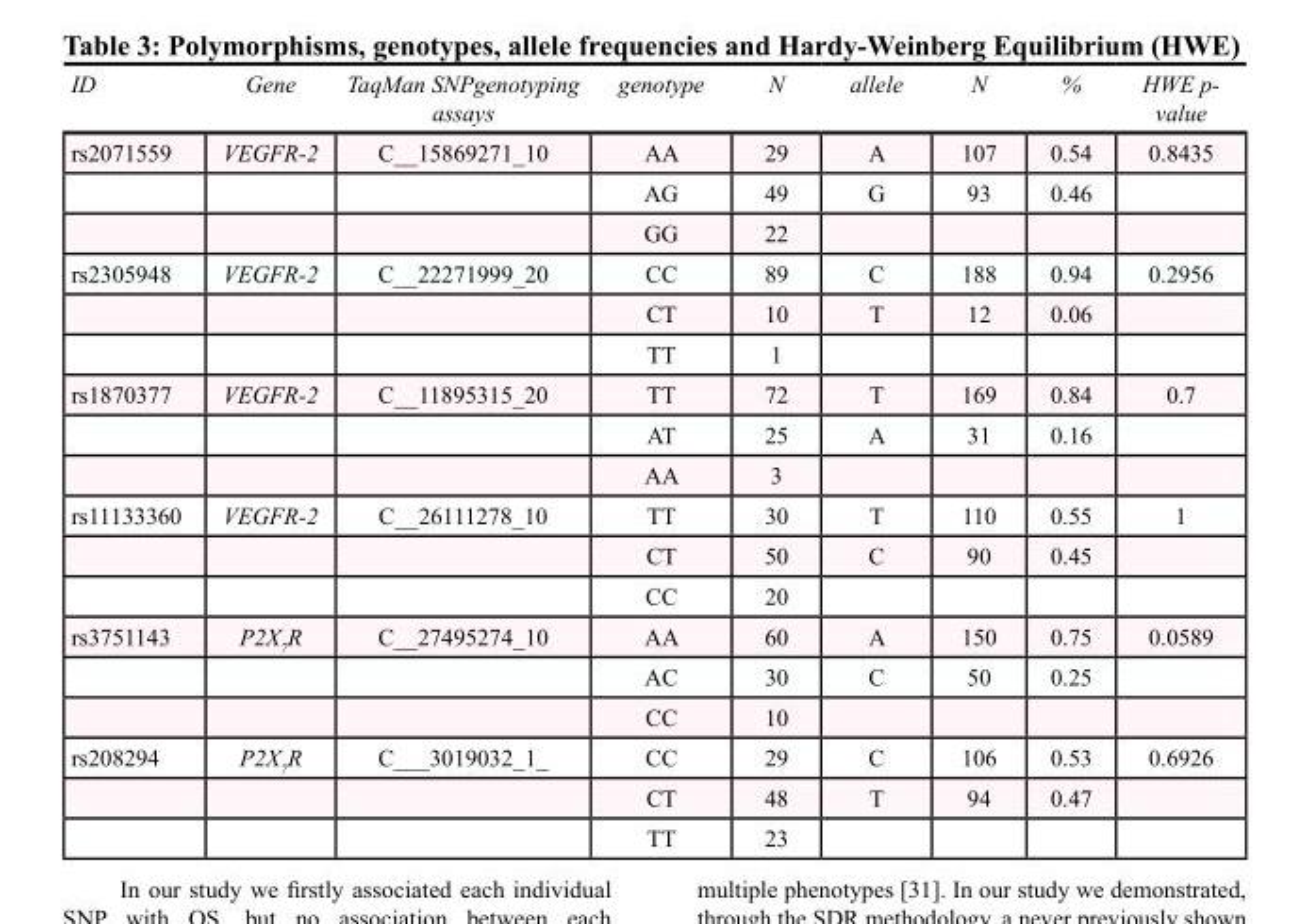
<table><thead><tr><td>ID</td><td>Gene</td><td>TaqMan SNPgenotyping assays</td><td>genotype</td><td>N</td><td>allele</td><td>N</td><td>%</td><td>HWE p- value</td></tr></thead><tbody><tr><td rowspan="3">rs2071559</td><td>VEGFR-2</td><td>C__15869271_10</td><td>AA</td><td>29</td><td>A</td><td>107</td><td>0.54</td><td>0.8435</td></tr><tr><td></td><td></td><td>AG</td><td>49</td><td>G</td><td>93</td><td>0.46</td><td></td></tr><tr><td></td><td></td><td>GG</td><td>22</td><td></td><td></td><td></td><td></td></tr><tr><td rowspan="3">rs2305948</td><td>VEGFR-2</td><td>C__22271999_20</td><td>CC</td><td>89</td><td>C</td><td>188</td><td>0.94</td><td>0.2956</td></tr><tr><td></td><td></td><td>CT</td><td>10</td><td>T</td><td>12</td><td>0.06</td><td></td></tr><tr><td></td><td></td><td>TT</td><td>1</td><td></td><td></td><td></td><td></td></tr><tr><td rowspan="3">rs1870377</td><td>VEGFR-2</td><td>C__11895315_20</td><td>TT</td><td>72</td><td>T</td><td>169</td><td>0.84</td><td>0.7</td></tr><tr><td></td><td></td><td>AT</td><td>25</td><td>A</td><td>31</td><td>0.16</td><td></td></tr><tr><td></td><td></td><td>AA</td><td>3</td><td></td><td></td><td></td><td></td></tr><tr><td rowspan="3">rs11133360</td><td>VEGFR-2</td><td>C__26111278_10</td><td>TT</td><td>30</td><td>T</td><td>110</td><td>0.55</td><td>1</td></tr><tr><td></td><td></td><td>CT</td><td>50</td><td>C</td><td>90</td><td>0.45</td><td></td></tr><tr><td></td><td></td><td>CC</td><td>20</td><td></td><td></td><td></td><td></td></tr><tr><td rowspan="3">rs3751143</td><td>P2X<sub>7</sub>R</td><td>C__27495274_10</td><td>AA</td><td>60</td><td>A</td><td>150</td><td>0.75</td><td>0.0589</td></tr><tr><td></td><td></td><td>AC</td><td>30</td><td>C</td><td>50</td><td>0.25</td><td></td></tr><tr><td></td><td></td><td>CC</td><td>10</td><td></td><td></td><td></td><td></td></tr><tr><td rowspan="3">rs208294</td><td>P2X<sub>7</sub>R</td><td>C___3019032_1_</td><td>CC</td><td>29</td><td>C</td><td>106</td><td>0.53</td><td>0.6926</td></tr><tr><td></td><td></td><td>CT</td><td>48</td><td>T</td><td>94</td><td>0.47</td><td></td></tr><tr><td></td><td></td><td>TT</td><td>23</td><td></td><td></td><td></td><td></td></tr></tbody></table>